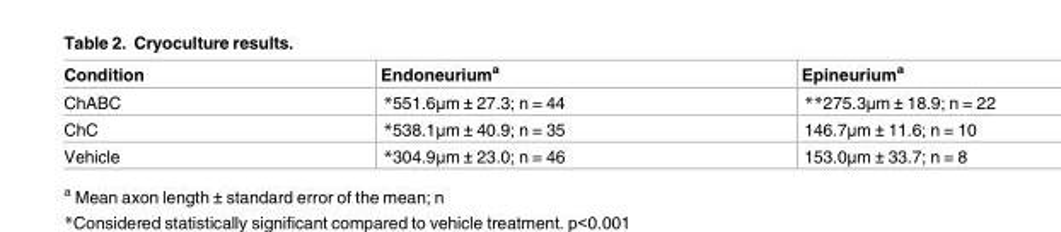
<table><thead><tr><td>Condition</td><td>Endoneurium<sup>a</sup></td><td>Epineurium<sup>a</sup></td></tr></thead><tbody><tr><td>ChABC</td><td>*551.6μm ± 27.3; n = 44</td><td>**275.3μm ± 18.9; n = 22</td></tr><tr><td>ChC</td><td>*538.1μm ± 40.9; n = 35</td><td>146.7μm ± 11.6; n = 10</td></tr><tr><td>Vehicle</td><td>*304.9μm ± 23.0; n = 46</td><td>153.0μm ± 33.7; n = 8</td></tr></tbody></table>